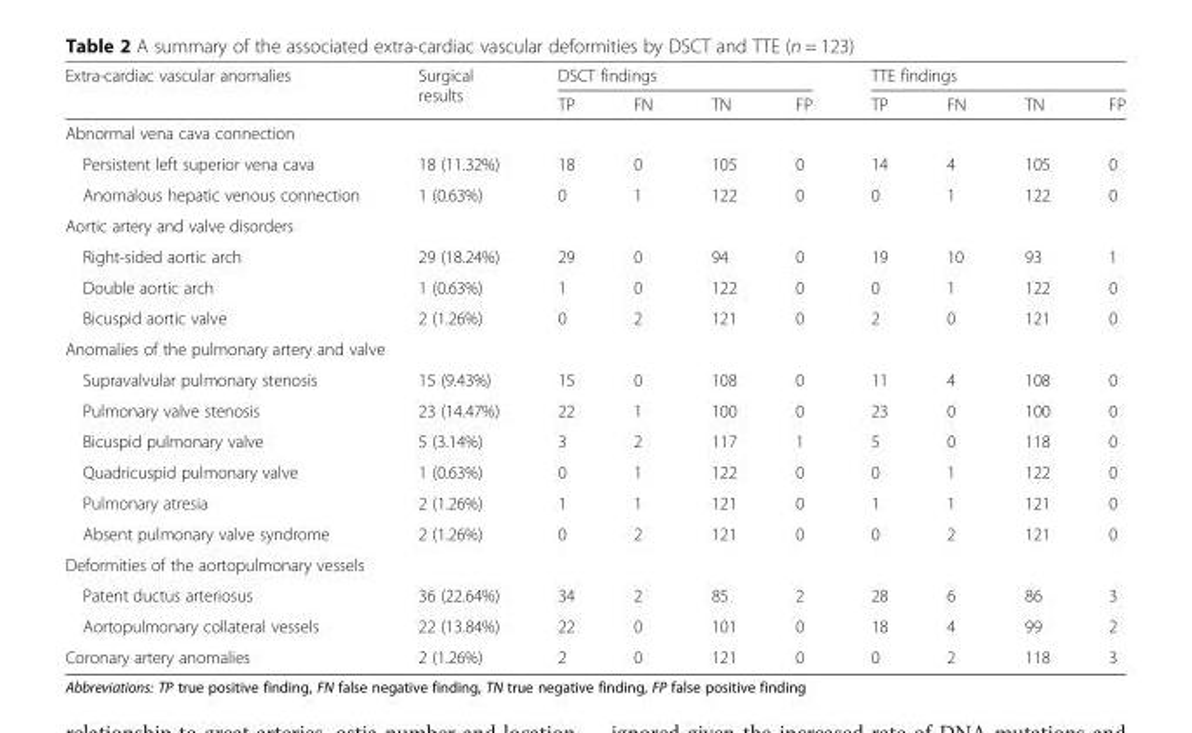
<table><thead><tr><td rowspan="2">Extra-cardiac vascular anomalies</td><td rowspan="2">Surgical results</td><td colspan="4">DSCT findings</td><td colspan="4">TTE findings</td></tr><tr><td>TP</td><td>FN</td><td>TN</td><td>FP</td><td>TP</td><td>FN</td><td>TN</td><td>FP</td></tr></thead><tbody><tr><td colspan="10">Abnormal vena cava connection</td></tr><tr><td>Persistent left superior vena cava</td><td>18 (11.32%)</td><td>18</td><td>0</td><td>105</td><td>0</td><td>14</td><td>4</td><td>105</td><td>0</td></tr><tr><td>Anomalous hepatic venous connection</td><td>1 (0.63%)</td><td>0</td><td>1</td><td>122</td><td>0</td><td>0</td><td>1</td><td>122</td><td>0</td></tr><tr><td colspan="10">Aortic artery and valve disorders</td></tr><tr><td>Right-sided aortic arch</td><td>29 (18.24%)</td><td>29</td><td>0</td><td>94</td><td>0</td><td>19</td><td>10</td><td>93</td><td>1</td></tr><tr><td>Double aortic arch</td><td>1 (0.63%)</td><td>1</td><td>0</td><td>122</td><td>0</td><td>0</td><td>1</td><td>122</td><td>0</td></tr><tr><td>Bicuspid aortic valve</td><td>2 (1.26%)</td><td>0</td><td>2</td><td>121</td><td>0</td><td>2</td><td>0</td><td>121</td><td>0</td></tr><tr><td colspan="10">Anomalies of the pulmonary artery and valve</td></tr><tr><td>Supravalvular pulmonary stenosis</td><td>15 (9.43%)</td><td>15</td><td>0</td><td>108</td><td>0</td><td>11</td><td>4</td><td>108</td><td>0</td></tr><tr><td>Pulmonary valve stenosis</td><td>23 (14.47%)</td><td>22</td><td>1</td><td>100</td><td>0</td><td>23</td><td>0</td><td>100</td><td>0</td></tr><tr><td>Bicuspid pulmonary valve</td><td>5 (3.14%)</td><td>3</td><td>2</td><td>117</td><td>1</td><td>5</td><td>0</td><td>118</td><td>0</td></tr><tr><td>Quadricuspid pulmonary valve</td><td>1 (0.63%)</td><td>0</td><td>1</td><td>122</td><td>0</td><td>0</td><td>1</td><td>122</td><td>0</td></tr><tr><td>Pulmonary atresia</td><td>2 (1.26%)</td><td>1</td><td>1</td><td>121</td><td>0</td><td>1</td><td>1</td><td>121</td><td>0</td></tr><tr><td>Absent pulmonary valve syndrome</td><td>2 (1.26%)</td><td>0</td><td>2</td><td>121</td><td>0</td><td>0</td><td>2</td><td>121</td><td>0</td></tr><tr><td colspan="10">Deformities of the aortopulmonary vessels</td></tr><tr><td>Patent ductus arteriosus</td><td>36 (22.64%)</td><td>34</td><td>2</td><td>85</td><td>2</td><td>28</td><td>6</td><td>86</td><td>3</td></tr><tr><td>Aortopulmonary collateral vessels</td><td>22 (13.84%)</td><td>22</td><td>0</td><td>101</td><td>0</td><td>18</td><td>4</td><td>99</td><td>2</td></tr><tr><td>Coronary artery anomalies</td><td>2 (1.26%)</td><td>2</td><td>0</td><td>121</td><td>0</td><td>0</td><td>2</td><td>118</td><td>3</td></tr></tbody></table>